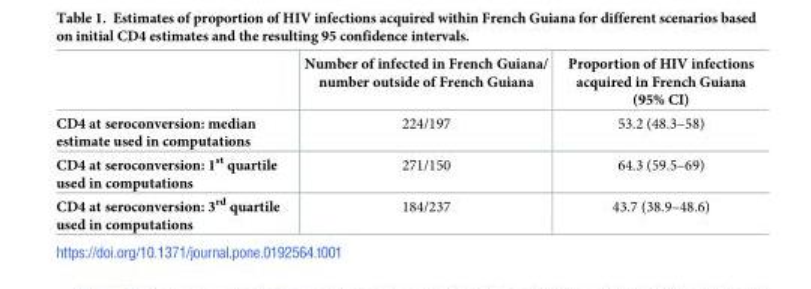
<table><thead><tr><td></td><td>Number of infected in French Guiana/ number outside of French Guiana</td><td>Proportion of HIV infections acquired in French Guiana (95% CI)</td></tr></thead><tbody><tr><td>CD4 at seroconversion: median estimate used in computations</td><td>224/197</td><td>53.2 (48.3–58)</td></tr><tr><td>CD4 at seroconversion: 1<sup>st</sup> quartile used in computations</td><td>271/150</td><td>64.3 (59.5–69)</td></tr><tr><td>CD4 at seroconversion: 3<sup>rd</sup> quartile used in computations</td><td>184/237</td><td>43.7 (38.9–48.6)</td></tr></tbody></table>